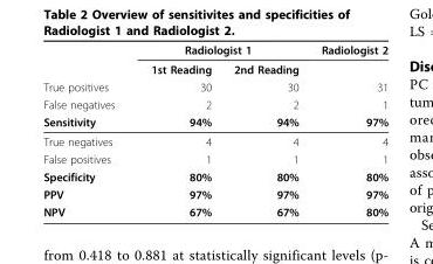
<table><thead><tr><td rowspan="5">True positives False negatives Sensitivity</td><td colspan="2">Radiologist 1</td><td rowspan="5">Radiologist 2 31 1 97%</td></tr><tr><td rowspan="4">1st Reading 30 2 94%</td><td rowspan="4">2nd Reading 30 2 94%</td></tr><tr></tr><tr></tr><tr></tr></thead><tbody><tr><td>True negatives</td><td>4</td><td>4</td><td>4</td></tr><tr><td>False positives</td><td>1</td><td>1</td><td>1</td></tr><tr><td>Specificity</td><td>80%</td><td>80%</td><td>80%</td></tr><tr><td>PPV</td><td>97%</td><td>97%</td><td>97%</td></tr><tr><td>NPV</td><td>67%</td><td>67%</td><td>80%</td></tr></tbody></table>